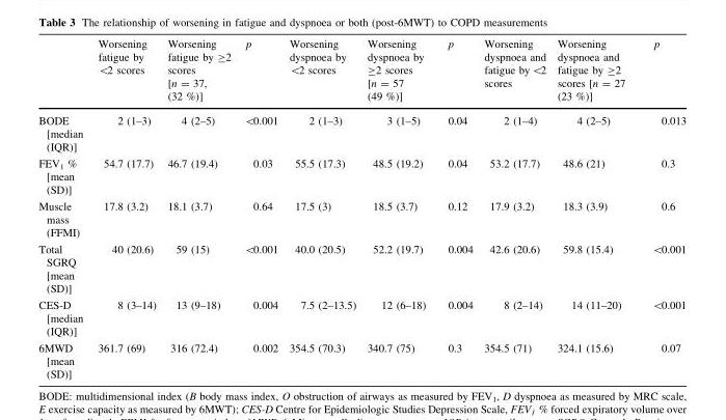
<table><thead><tr><td></td><td>Worsening fatigue by &lt;2 scores</td><td>Worsening fatigue by ≥2 scores [n = 37, (32 %)]</td><td>p</td><td>Worsening dyspnoea by &lt;2 scores</td><td>Worsening dyspnoea by ≥2 scores [n = 57 (49 %)]</td><td>p</td><td>Worsening dyspnoea and fatigue by&lt;2 scores</td><td>Worsening dyspnoea and fatigue by ≥2 scores [n = 27 (23 %)]</td><td>p</td></tr></thead><tbody><tr><td>BODE [median (IQR)]</td><td>2 (1–3)</td><td>4 (2–5)</td><td>&lt;0.001</td><td>2 (1–3)</td><td>3 (1–5)</td><td>0.04</td><td>2 (1–4)</td><td>4 (2–5)</td><td>0.013</td></tr><tr><td>FEV<sub>1</sub> % [mean (SD)]</td><td>54.7 (17.7)</td><td>46.7 (19.4)</td><td>0.03</td><td>55.5 (17.3)</td><td>48.5 (19.2)</td><td>0.04</td><td>53.2 (17.7)</td><td>48.6 (21)</td><td>0.3</td></tr><tr><td>Muscle mass (FFMI)</td><td>17.8 (3.2)</td><td>18.1 (3.7)</td><td>0.64</td><td>17.5 (3)</td><td>18.5 (3.7)</td><td>0.12</td><td>17.9 (3.2)</td><td>18.3 (3.9)</td><td>0.6</td></tr><tr><td>Total SGRQ [mean (SD)]</td><td>40 (20.6)</td><td>59 (15)</td><td>&lt;0.001</td><td>40.0 (20.5)</td><td>52.2 (19.7)</td><td>0.004</td><td>42.6 (20.6)</td><td>59.8 (15.4)</td><td>&lt;0.001</td></tr><tr><td>CES-D [median (IQR)]</td><td>8 (3–14)</td><td>13 (9–18)</td><td>0.004</td><td>7.5 (2–13.5)</td><td>12 (6–18)</td><td>0.004</td><td>8 (2–14)</td><td>14 (11–20)</td><td>&lt;0.001</td></tr><tr><td>6MWD [mean (SD)]</td><td>361.7 (69)</td><td>316 (72.4)</td><td>0.002</td><td>354.5 (70.3)</td><td>340.7 (75)</td><td>0.3</td><td>354.5 (71)</td><td>324.1 (15.6)</td><td>0.07</td></tr></tbody></table>